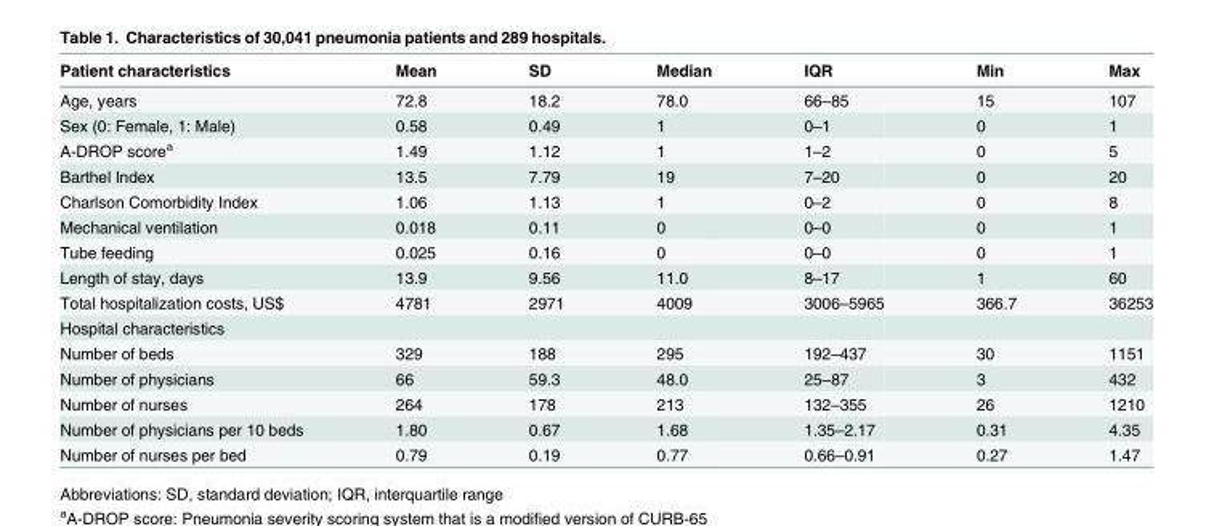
<table><thead><tr><td>Patient characteristics</td><td>Mean</td><td>SD</td><td>Median</td><td>IQR</td><td>Min</td><td>Max</td></tr></thead><tbody><tr><td>Age, years</td><td>72.8</td><td>18.2</td><td>78.0</td><td>66–85</td><td>15</td><td>107</td></tr><tr><td>Sex (0: Female, 1: Male)</td><td>0.58</td><td>0.49</td><td>1</td><td>0–1</td><td>0</td><td>1</td></tr><tr><td>A-DROP score<sup>a</sup></td><td>1.49</td><td>1.12</td><td>1</td><td>1–2</td><td>0</td><td>5</td></tr><tr><td>Barthel Index</td><td>13.5</td><td>7.79</td><td>19</td><td>7–20</td><td>0</td><td>20</td></tr><tr><td>Charlson Comorbidity Index</td><td>1.06</td><td>1.13</td><td>1</td><td>0–2</td><td>0</td><td>8</td></tr><tr><td>Mechanical ventilation</td><td>0.018</td><td>0.11</td><td>0</td><td>0–0</td><td>0</td><td>1</td></tr><tr><td>Tube feeding</td><td>0.025</td><td>0.16</td><td>0</td><td>0–0</td><td>0</td><td>1</td></tr><tr><td>Length of stay, days</td><td>13.9</td><td>9.56</td><td>11.0</td><td>8–17</td><td>1</td><td>60</td></tr><tr><td>Total hospitalization costs, US$</td><td>4781</td><td>2971</td><td>4009</td><td>3006–5965</td><td>366.7</td><td>36253</td></tr><tr><td colspan="7">Hospital characteristics</td></tr><tr><td>Number of beds</td><td>329</td><td>188</td><td>295</td><td>192–437</td><td>30</td><td>1151</td></tr><tr><td>Number of physicians</td><td>66</td><td>59.3</td><td>48.0</td><td>25–87</td><td>3</td><td>432</td></tr><tr><td>Number of nurses</td><td>264</td><td>178</td><td>213</td><td>132–355</td><td>26</td><td>1210</td></tr><tr><td>Number of physicians per 10 beds</td><td>1.80</td><td>0.67</td><td>1.68</td><td>1.35–2.17</td><td>0.31</td><td>4.35</td></tr><tr><td>Number of nurses per bed</td><td>0.79</td><td>0.19</td><td>0.77</td><td>0.66–0.91</td><td>0.27</td><td>1.47</td></tr></tbody></table>